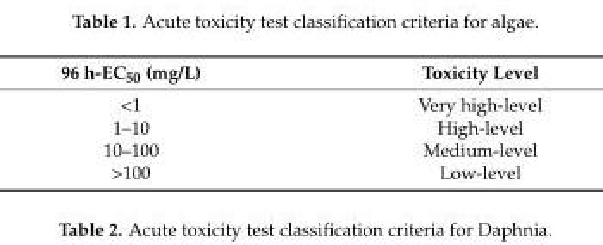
<table><thead><tr><td>96 h-EC<sub>50</sub> (mg/L)</td><td>Toxicity Level</td></tr></thead><tbody><tr><td>&lt;1</td><td>Very high-level</td></tr><tr><td>1–10</td><td>High-level</td></tr><tr><td>10–100</td><td>Medium-level</td></tr><tr><td>&gt;100</td><td>Low-level</td></tr></tbody></table>